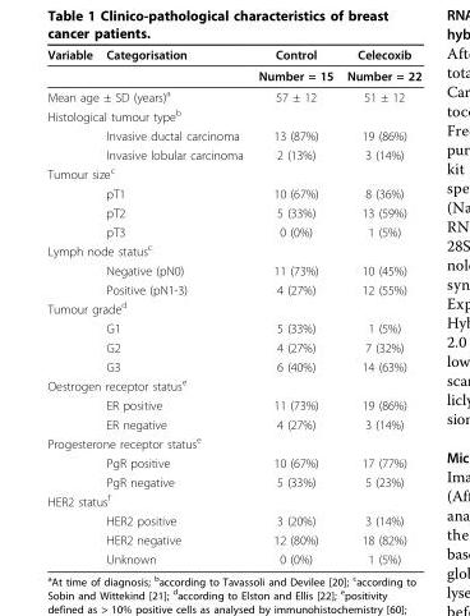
<table><thead><tr><td>Variable</td><td>Categorisation</td><td>Control</td><td>Celecoxib</td></tr></thead><tbody><tr><td></td><td></td><td>Number = 15</td><td>Number = 22</td></tr><tr><td colspan="2">Mean age ± SD (years)<sup>a</sup></td><td>57 ± 12</td><td>51 ± 12</td></tr><tr><td colspan="4">Histological tumour type<sup>b</sup></td></tr><tr><td></td><td>Invasive ductal carcinoma</td><td>13 (87%)</td><td>19 (86%)</td></tr><tr><td></td><td>Invasive lobular carcinoma</td><td>2 (13%)</td><td>3 (14%)</td></tr><tr><td colspan="4">Tumour size<sup>c</sup></td></tr><tr><td></td><td>pT1</td><td>10 (67%)</td><td>8 (36%)</td></tr><tr><td></td><td>pT2</td><td>5 (33%)</td><td>13 (59%)</td></tr><tr><td></td><td>pT3</td><td>0 (0%)</td><td>1 (5%)</td></tr><tr><td colspan="4">Lymph node status<sup>c</sup></td></tr><tr><td></td><td>Negative (pN0)</td><td>11 (73%)</td><td>10 (45%)</td></tr><tr><td></td><td>Positive (pN1-3)</td><td>4 (27%)</td><td>12 (55%)</td></tr><tr><td colspan="4">Tumour grade<sup>d</sup></td></tr><tr><td></td><td>G1</td><td>5 (33%)</td><td>1 (5%)</td></tr><tr><td></td><td>G2</td><td>4 (27%)</td><td>7 (32%)</td></tr><tr><td></td><td>G3</td><td>6 (40%)</td><td>14 (63%)</td></tr><tr><td colspan="4">Oestrogen receptor status<sup>e</sup></td></tr><tr><td></td><td>ER positive</td><td>11 (73%)</td><td>19 (86%)</td></tr><tr><td></td><td>ER negative</td><td>4 (27%)</td><td>3 (14%)</td></tr><tr><td colspan="4">Progesterone receptor status<sup>e</sup></td></tr><tr><td></td><td>PgR positive</td><td>10 (67%)</td><td>17 (77%)</td></tr><tr><td></td><td>PgR negative</td><td>5 (33%)</td><td>5 (23%)</td></tr><tr><td colspan="4">HER2 status<sup>f</sup></td></tr><tr><td></td><td>HER2 positive</td><td>3 (20%)</td><td>3 (14%)</td></tr><tr><td></td><td>HER2 negative</td><td>12 (80%)</td><td>18 (82%)</td></tr><tr><td></td><td>Unknown</td><td>0 (0%)</td><td>1 (5%)</td></tr></tbody></table>